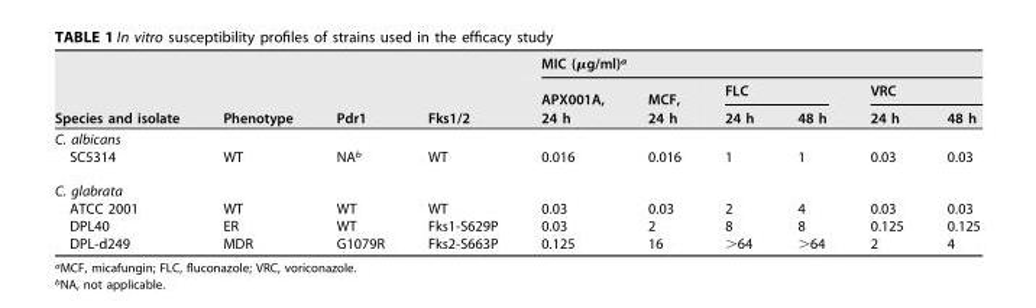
<table><thead><tr><td rowspan="3">Species and isolate</td><td rowspan="3">Phenotype</td><td rowspan="3">Pdr1</td><td rowspan="3">Fks1/2</td><td colspan="6">MIC (μg/ml)<sup>a</sup></td></tr><tr><td rowspan="2">APX001A, 24 h</td><td rowspan="2">MCF, 24 h</td><td colspan="2">FLC</td><td colspan="2">VRC</td></tr><tr><td>24 h</td><td>48 h</td><td>24 h</td><td>48 h</td></tr></thead><tbody><tr><td colspan="10">C. albicans</td></tr><tr><td>SC5314</td><td>WT</td><td>NA<sup>b</sup></td><td>WT</td><td>0.016</td><td>0.016</td><td>1</td><td>1</td><td>0.03</td><td>0.03</td></tr><tr><td colspan="10">C. glabrata</td></tr><tr><td>ATCC 2001</td><td>WT</td><td>WT</td><td>WT</td><td>0.03</td><td>0.03</td><td>2</td><td>4</td><td>0.03</td><td>0.03</td></tr><tr><td>DPL40</td><td>ER</td><td>WT</td><td>Fks1-S629P</td><td>0.03</td><td>2</td><td>8</td><td>8</td><td>0.125</td><td>0.125</td></tr><tr><td>DPL-d249</td><td>MDR</td><td>G1079R</td><td>Fks2-S663P</td><td>0.125</td><td>16</td><td>&gt;64</td><td>&gt;64</td><td>2</td><td>4</td></tr></tbody></table>